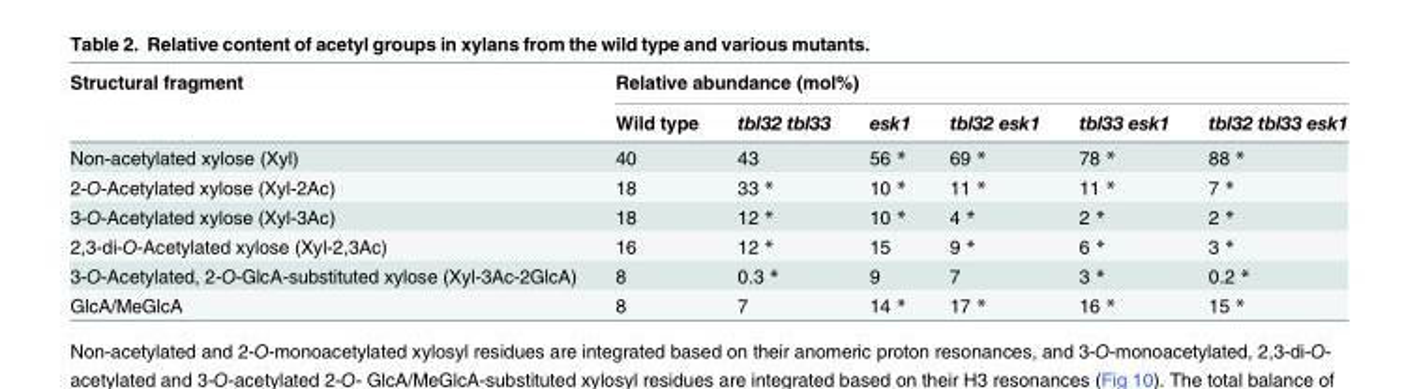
<table><thead><tr><td rowspan="2">Structural fragment</td><td colspan="6">Relative abundance (mol%)</td></tr><tr><td>Wild type</td><td>tbl32 tbl33</td><td>esk1</td><td>tbl32 esk1</td><td>tbl33 esk1</td><td>tbl32 tbl33 esk1</td></tr></thead><tbody><tr><td>Non-acetylated xylose (Xyl)</td><td>40</td><td>43</td><td>56 *</td><td>69 *</td><td>78 *</td><td>88 *</td></tr><tr><td>2-O-Acetylated xylose (Xyl-2Ac)</td><td>18</td><td>33 *</td><td>10 *</td><td>11 *</td><td>11 *</td><td>7 *</td></tr><tr><td>3-O-Acetylated xylose (Xyl-3Ac)</td><td>18</td><td>12 *</td><td>10 *</td><td>4 *</td><td>2 *</td><td>2 *</td></tr><tr><td>2,3-di-O-Acetylated xylose (Xyl-2,3Ac)</td><td>16</td><td>12 *</td><td>15</td><td>9 *</td><td>6 *</td><td>3 *</td></tr><tr><td>3-O-Acetylated, 2-O-GlcA-substituted xylose (Xyl-3Ac-2GlcA)</td><td>8</td><td>0.3 *</td><td>9</td><td>7</td><td>3 *</td><td>0.2 *</td></tr><tr><td>GlcA/MeGlcA</td><td>8</td><td>7</td><td>14 *</td><td>17 *</td><td>16 *</td><td>15 *</td></tr></tbody></table>